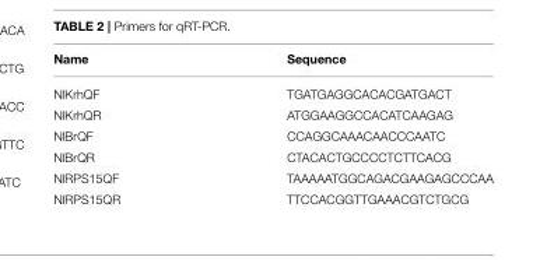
<table><thead><tr><td>Name</td><td>Sequence</td></tr></thead><tbody><tr><td>NlKrhQF</td><td>TGATGAGGCACACGATGACT</td></tr><tr><td>NlKrhQR</td><td>ATGGAAGGCCACATCAAGAG</td></tr><tr><td>NlBrQF</td><td>CCAGGCAAACAACCCAATC</td></tr><tr><td>NlBrQR</td><td>CTACACTGCCCCTCTTCACG</td></tr><tr><td>NlRPS15QF</td><td>TAAAAATGGCAGACGAAGAGCCCAA</td></tr><tr><td>NlRPS15QR</td><td>TTCCACGGTTGAAACGTCTGCG</td></tr></tbody></table>